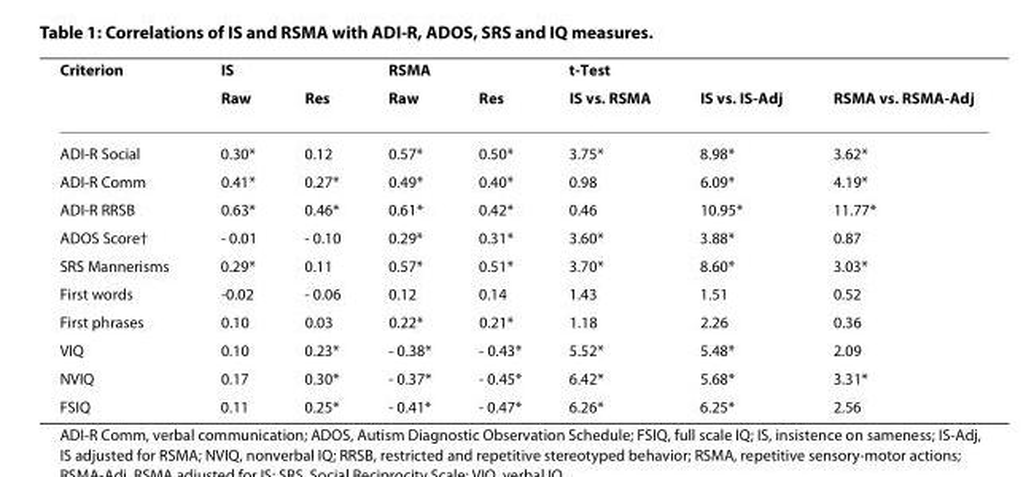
<table><thead><tr><td rowspan="2">Criterion</td><td colspan="2">IS</td><td colspan="2">RSMA</td><td colspan="3">t-Test</td></tr><tr><td>Raw</td><td>Res</td><td>Raw</td><td>Res</td><td>IS vs. RSMA</td><td>IS vs. IS-Adj</td><td>RSMA vs. RSMA-Adj</td></tr></thead><tbody><tr><td>ADI-R Social</td><td>0.30*</td><td>0.12</td><td>0.57*</td><td>0.50*</td><td>3.75*</td><td>8.98*</td><td>3.62*</td></tr><tr><td>ADI-R Comm</td><td>0.41*</td><td>0.27*</td><td>0.49*</td><td>0.40*</td><td>0.98</td><td>6.09*</td><td>4.19*</td></tr><tr><td>ADI-R RRSB</td><td>0.63*</td><td>0.46*</td><td>0.61*</td><td>0.42*</td><td>0.46</td><td>10.95*</td><td>11.77*</td></tr><tr><td>ADOS Score†</td><td>- 0.01</td><td>- 0.10</td><td>0.29*</td><td>0.31*</td><td>3.60*</td><td>3.88*</td><td>0.87</td></tr><tr><td>SRS Mannerisms</td><td>0.29*</td><td>0.11</td><td>0.57*</td><td>0.51*</td><td>3.70*</td><td>8.60*</td><td>3.03*</td></tr><tr><td>First words</td><td>-0.02</td><td>- 0.06</td><td>0.12</td><td>0.14</td><td>1.43</td><td>1.51</td><td>0.52</td></tr><tr><td>First phrases</td><td>0.10</td><td>0.03</td><td>0.22*</td><td>0.21*</td><td>1.18</td><td>2.26</td><td>0.36</td></tr><tr><td>VIQ</td><td>0.10</td><td>0.23*</td><td>- 0.38*</td><td>- 0.43*</td><td>5.52*</td><td>5.48*</td><td>2.09</td></tr><tr><td>NVIQ</td><td>0.17</td><td>0.30*</td><td>- 0.37*</td><td>- 0.45*</td><td>6.42*</td><td>5.68*</td><td>3.31*</td></tr><tr><td>FSIQ</td><td>0.11</td><td>0.25*</td><td>- 0.41*</td><td>- 0.47*</td><td>6.26*</td><td>6.25*</td><td>2.56</td></tr></tbody></table>